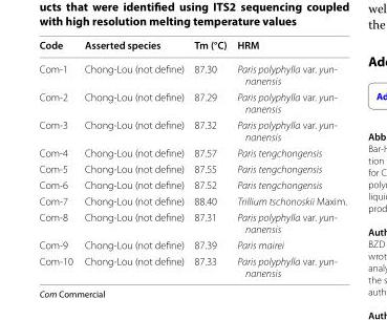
<table><thead><tr><td>Code</td><td>Asserted species</td><td>Tm (°C)</td><td>HRM</td></tr></thead><tbody><tr><td>Com‑1</td><td>Chong‑Lou (not define)</td><td>87.30</td><td>Paris polyphylla var. yun- nanensis</td></tr><tr><td>Com‑2</td><td>Chong‑Lou (not define)</td><td>87.29</td><td>Paris polyphylla var. yun- nanensis</td></tr><tr><td>Com‑3</td><td>Chong‑Lou (not define)</td><td>87.32</td><td>Paris polyphylla var. yun- nanensis</td></tr><tr><td>Com‑4</td><td>Chong‑Lou (not define)</td><td>87.57</td><td>Paris tengchongensis</td></tr><tr><td>Com‑5</td><td>Chong‑Lou (not define)</td><td>87.55</td><td>Paris tengchongensis</td></tr><tr><td>Com‑6</td><td>Chong‑Lou (not define)</td><td>87.52</td><td>Paris tengchongensis</td></tr><tr><td>Com‑7</td><td>Chong‑Lou (not define)</td><td>88.40</td><td>Trillium tschonoskii Maxim.</td></tr><tr><td>Com‑8</td><td>Chong‑Lou (not define)</td><td>87.31</td><td>Paris polyphylla var. yun- nanensis</td></tr><tr><td>Com‑9</td><td>Chong‑Lou (not define)</td><td>87.39</td><td>Paris mairei</td></tr><tr><td>Com‑10</td><td>Chong‑Lou (not define)</td><td>87.33</td><td>Paris polyphylla var. yun- nanensis</td></tr></tbody></table>